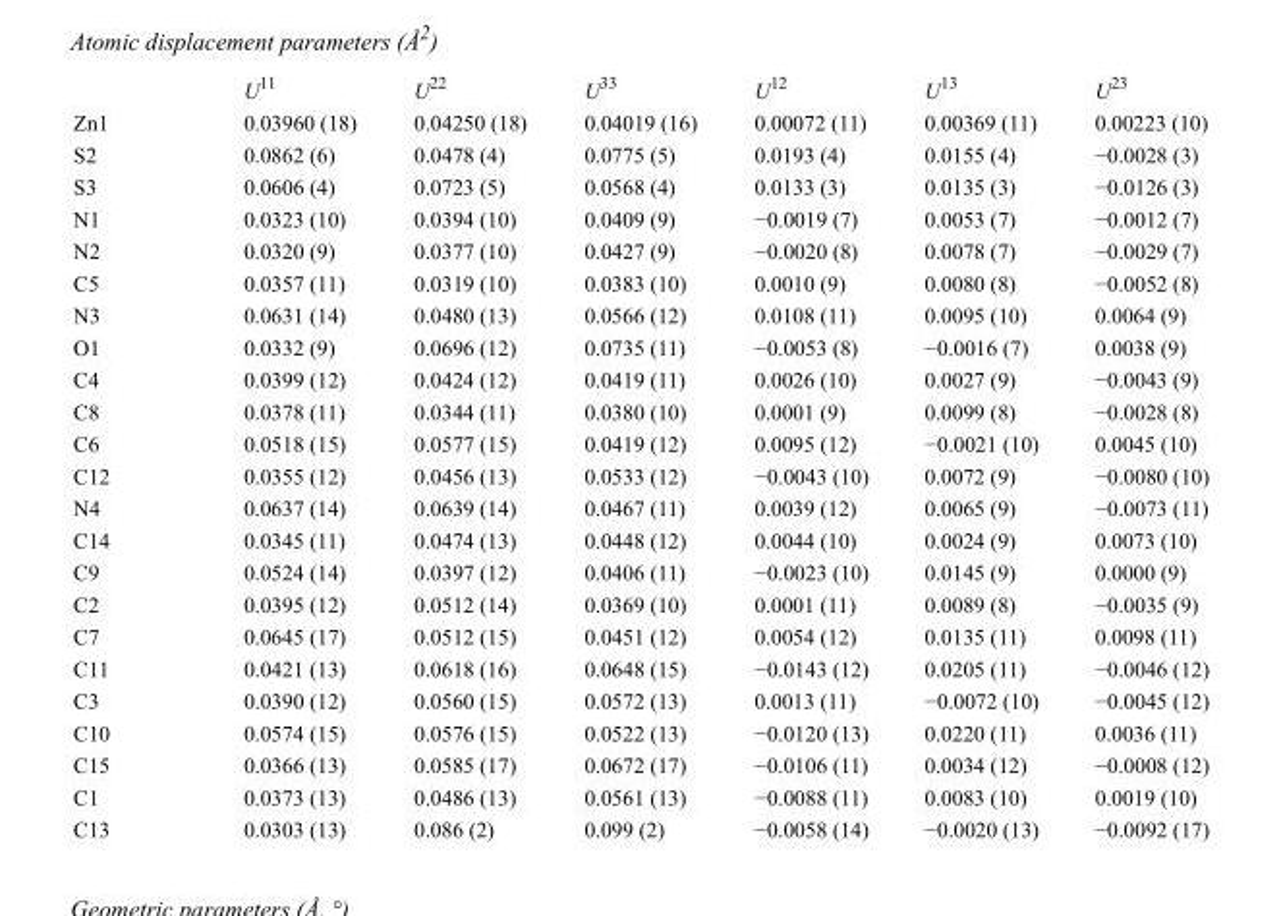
<table><thead><tr><td></td><td>U<sup>11</sup></td><td>U<sup>22</sup></td><td>U<sup>33</sup></td><td>U<sup>12</sup></td><td>U<sup>13</sup></td><td>U<sup>23</sup></td></tr></thead><tbody><tr><td>Zn1</td><td>0.03960 (18)</td><td>0.04250 (18)</td><td>0.04019 (16)</td><td>0.00072 (11)</td><td>0.00369 (11)</td><td>0.00223 (10)</td></tr><tr><td>S2</td><td>0.0862 (6)</td><td>0.0478 (4)</td><td>0.0775 (5)</td><td>0.0193 (4)</td><td>0.0155 (4)</td><td>−0.0028 (3)</td></tr><tr><td>S3</td><td>0.0606 (4)</td><td>0.0723 (5)</td><td>0.0568 (4)</td><td>0.0133 (3)</td><td>0.0135 (3)</td><td>−0.0126 (3)</td></tr><tr><td>N1</td><td>0.0323 (10)</td><td>0.0394 (10)</td><td>0.0409 (9)</td><td>−0.0019 (7)</td><td>0.0053 (7)</td><td>−0.0012 (7)</td></tr><tr><td>N2</td><td>0.0320 (9)</td><td>0.0377 (10)</td><td>0.0427 (9)</td><td>−0.0020 (8)</td><td>0.0078 (7)</td><td>−0.0029 (7)</td></tr><tr><td>C5</td><td>0.0357 (11)</td><td>0.0319 (10)</td><td>0.0383 (10)</td><td>0.0010 (9)</td><td>0.0080 (8)</td><td>−0.0052 (8)</td></tr><tr><td>N3</td><td>0.0631 (14)</td><td>0.0480 (13)</td><td>0.0566 (12)</td><td>0.0108 (11)</td><td>0.0095 (10)</td><td>0.0064 (9)</td></tr><tr><td>O1</td><td>0.0332 (9)</td><td>0.0696 (12)</td><td>0.0735 (11)</td><td>−0.0053 (8)</td><td>−0.0016 (7)</td><td>0.0038 (9)</td></tr><tr><td>C4</td><td>0.0399 (12)</td><td>0.0424 (12)</td><td>0.0419 (11)</td><td>0.0026 (10)</td><td>0.0027 (9)</td><td>−0.0043 (9)</td></tr><tr><td>C8</td><td>0.0378 (11)</td><td>0.0344 (11)</td><td>0.0380 (10)</td><td>0.0001 (9)</td><td>0.0099 (8)</td><td>−0.0028 (8)</td></tr><tr><td>C6</td><td>0.0518 (15)</td><td>0.0577 (15)</td><td>0.0419 (12)</td><td>0.0095 (12)</td><td>−0.0021 (10)</td><td>0.0045 (10)</td></tr><tr><td>C12</td><td>0.0355 (12)</td><td>0.0456 (13)</td><td>0.0533 (12)</td><td>−0.0043 (10)</td><td>0.0072 (9)</td><td>−0.0080 (10)</td></tr><tr><td>N4</td><td>0.0637 (14)</td><td>0.0639 (14)</td><td>0.0467 (11)</td><td>0.0039 (12)</td><td>0.0065 (9)</td><td>−0.0073 (11)</td></tr><tr><td>C14</td><td>0.0345 (11)</td><td>0.0474 (13)</td><td>0.0448 (12)</td><td>0.0044 (10)</td><td>0.0024 (9)</td><td>0.0073 (10)</td></tr><tr><td>C9</td><td>0.0524 (14)</td><td>0.0397 (12)</td><td>0.0406 (11)</td><td>−0.0023 (10)</td><td>0.0145 (9)</td><td>0.0000 (9)</td></tr><tr><td>C2</td><td>0.0395 (12)</td><td>0.0512 (14)</td><td>0.0369 (10)</td><td>0.0001 (11)</td><td>0.0089 (8)</td><td>−0.0035 (9)</td></tr><tr><td>C7</td><td>0.0645 (17)</td><td>0.0512 (15)</td><td>0.0451 (12)</td><td>0.0054 (12)</td><td>0.0135 (11)</td><td>0.0098 (11)</td></tr><tr><td>C11</td><td>0.0421 (13)</td><td>0.0618 (16)</td><td>0.0648 (15)</td><td>−0.0143 (12)</td><td>0.0205 (11)</td><td>−0.0046 (12)</td></tr><tr><td>C3</td><td>0.0390 (12)</td><td>0.0560 (15)</td><td>0.0572 (13)</td><td>0.0013 (11)</td><td>−0.0072 (10)</td><td>−0.0045 (12)</td></tr><tr><td>C10</td><td>0.0574 (15)</td><td>0.0576 (15)</td><td>0.0522 (13)</td><td>−0.0120 (13)</td><td>0.0220 (11)</td><td>0.0036 (11)</td></tr><tr><td>C15</td><td>0.0366 (13)</td><td>0.0585 (17)</td><td>0.0672 (17)</td><td>−0.0106 (11)</td><td>0.0034 (12)</td><td>−0.0008 (12)</td></tr><tr><td>C1</td><td>0.0373 (13)</td><td>0.0486 (13)</td><td>0.0561 (13)</td><td>−0.0088 (11)</td><td>0.0083 (10)</td><td>0.0019 (10)</td></tr><tr><td>C13</td><td>0.0303 (13)</td><td>0.086 (2)</td><td>0.099 (2)</td><td>−0.0058 (14)</td><td>−0.0020 (13)</td><td>−0.0092 (17)</td></tr></tbody></table>